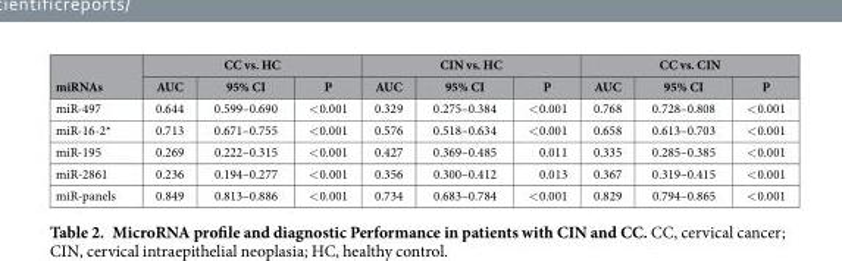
<table><thead><tr><td rowspan="2">miRNAs</td><td colspan="3">CC vs. HC</td><td colspan="3">CIN vs. HC</td><td colspan="3">CC vs. CIN</td></tr><tr><td>AUC</td><td>95% CI</td><td>P</td><td>AUC</td><td>95% CI</td><td>P</td><td>AUC</td><td>95% CI</td><td>P</td></tr></thead><tbody><tr><td>miR-497</td><td>0.644</td><td>0.599–0.690</td><td>&lt; 0.001</td><td>0.329</td><td>0.275–0.384</td><td>&lt; 0.001</td><td>0.768</td><td>0.728–0.808</td><td>&lt; 0.001</td></tr><tr><td>miR-16-2*</td><td>0.713</td><td>0.671–0.755</td><td>&lt; 0.001</td><td>0.576</td><td>0.518–0.634</td><td>&lt; 0.001</td><td>0.658</td><td>0.613–0.703</td><td>&lt; 0.001</td></tr><tr><td>miR-195</td><td>0.269</td><td>0.222–0.315</td><td>&lt; 0.001</td><td>0.427</td><td>0.369–0.485</td><td>0.011</td><td>0.335</td><td>0.285–0.385</td><td>&lt; 0.001</td></tr><tr><td>miR-2861</td><td>0.236</td><td>0.194–0.277</td><td>&lt; 0.001</td><td>0.356</td><td>0.300–0.412</td><td>0.013</td><td>0.367</td><td>0.319–0.415</td><td>&lt; 0.001</td></tr><tr><td>miR-panels</td><td>0.849</td><td>0.813–0.886</td><td>&lt; 0.001</td><td>0.734</td><td>0.683–0.784</td><td>&lt; 0.001</td><td>0.829</td><td>0.794–0.865</td><td>&lt; 0.001</td></tr></tbody></table>